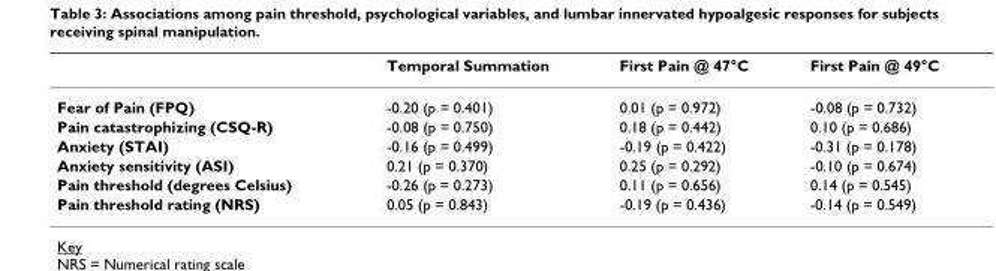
<table><thead><tr><td></td><td>Temporal Summation</td><td>First Pain @ 47°C</td><td>First Pain @ 49°C</td></tr></thead><tbody><tr><td>Fear of Pain (FPQ)</td><td>-0.20 (p = 0.401)</td><td>0.01 (p = 0.972)</td><td>-0.08 (p = 0.732)</td></tr><tr><td>Pain catastrophizing (CSQ-R)</td><td>-0.08 (p = 0.750)</td><td>0.18 (p = 0.442)</td><td>0.10 (p = 0.686)</td></tr><tr><td>Anxiety (STAI)</td><td>-0.16 (p = 0.499)</td><td>-0.19 (p = 0.422)</td><td>-0.31 (p = 0.178)</td></tr><tr><td>Anxiety sensitivity (ASI)</td><td>0.21 (p = 0.370)</td><td>0.25 (p = 0.292)</td><td>-0.10 (p = 0.674)</td></tr><tr><td>Pain threshold (degrees Celsius)</td><td>-0.26 (p = 0.273)</td><td>0.11 (p = 0.656)</td><td>0.14 (p = 0.545)</td></tr><tr><td>Pain threshold rating (NRS)</td><td>0.05 (p = 0.843)</td><td>-0.19 (p = 0.436)</td><td>-0.14 (p = 0.549)</td></tr></tbody></table>